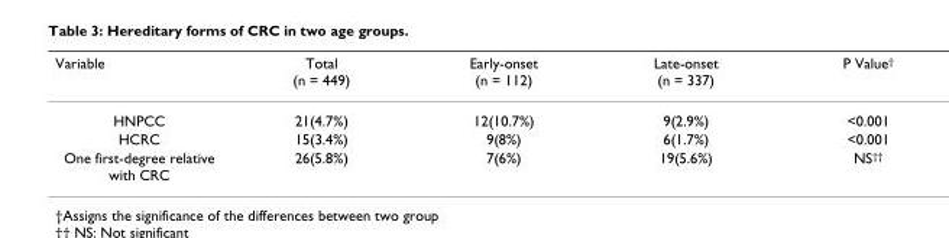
<table><thead><tr><td>Variable</td><td>Total (n = 449)</td><td>Early-onset (n = 112)</td><td>Late-onset (n = 337)</td><td>P Value†</td></tr></thead><tbody><tr><td>HNPCC</td><td>21(4.7%)</td><td>12(10.7%)</td><td>9(2.9%)</td><td>&lt;0.001</td></tr><tr><td>HCRC</td><td>15(3.4%)</td><td>9(8%)</td><td>6(1.7%)</td><td>&lt;0.001</td></tr><tr><td>One first-degree relative with CRC</td><td>26(5.8%)</td><td>7(6%)</td><td>19(5.6%)</td><td>NS††</td></tr></tbody></table>